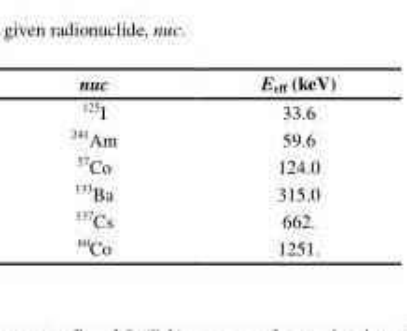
<table><thead><tr><td>nuc</td><td>E<sub>eff</sub> (keV)</td></tr></thead><tbody><tr><td><sup>125</sup>I</td><td>33.6</td></tr><tr><td><sup>241</sup>Am</td><td>59.6</td></tr><tr><td><sup>57</sup>Co</td><td>124.0</td></tr><tr><td><sup>133</sup>Ba</td><td>315.0</td></tr><tr><td><sup>137</sup>Cs</td><td>662.</td></tr><tr><td><sup>60</sup>Co</td><td>1251.</td></tr></tbody></table>